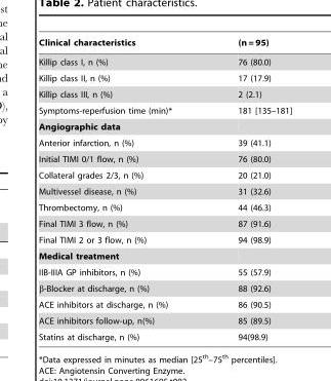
<table><thead><tr><td>Clinical characteristics</td><td>(n = 95)</td></tr></thead><tbody><tr><td>Killip class I, n (%)</td><td>76 (80.0)</td></tr><tr><td>Killip class II, n (%)</td><td>17 (17.9)</td></tr><tr><td>Killip class III, n (%)</td><td>2 (2.1)</td></tr><tr><td>Symptoms-reperfusion time (min)*</td><td>181 [135–181]</td></tr><tr><td colspan="2">Angiographic data</td></tr><tr><td>Anterior infarction, n (%)</td><td>39 (41.1)</td></tr><tr><td>Initial TIMI 0/1 flow, n (%)</td><td>76 (80.0)</td></tr><tr><td>Collateral grades 2/3, n (%)</td><td>20 (21.0)</td></tr><tr><td>Multivessel disease, n (%)</td><td>31 (32.6)</td></tr><tr><td>Thrombectomy, n (%)</td><td>44 (46.3)</td></tr><tr><td>Final TIMI 3 flow, n (%)</td><td>87 (91.6)</td></tr><tr><td>Final TIMI 2 or 3 flow, n (%)</td><td>94 (98.9)</td></tr><tr><td colspan="2">Medical treatment</td></tr><tr><td>IIB-IIIA GP inhibitors, n (%)</td><td>55 (57.9)</td></tr><tr><td>β-Blocker at discharge, n (%)</td><td>88 (92.6)</td></tr><tr><td>ACE inhibitors at discharge, n (%)</td><td>86 (90.5)</td></tr><tr><td>ACE inhibitors follow-up, n(%)</td><td>85 (89.5)</td></tr><tr><td>Statins at discharge, n (%)</td><td>94(98.9)</td></tr></tbody></table>